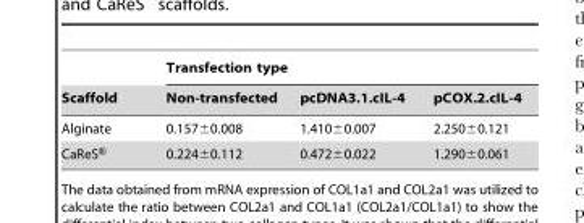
<table><thead><tr><td rowspan="2">Scaffold</td><td colspan="3">Transfection type</td></tr><tr><td>Non-transfected</td><td>pcDNA3.1.cIL-4</td><td>pCOX.2.cIL-4</td></tr></thead><tbody><tr><td>Alginate</td><td>0.157±0.008</td><td>1.410±0.007</td><td>2.250±0.121</td></tr><tr><td>CaReS®</td><td>0.224±0.112</td><td>0.472±0.022</td><td>1.290±0.061</td></tr></tbody></table>